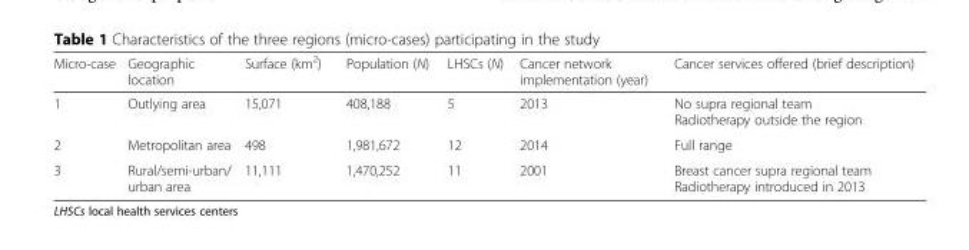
<table><thead><tr><td>Micro-case</td><td>Geographic location</td><td>Surface (km<sup>2</sup>)</td><td>Population (N)</td><td>LHSCs (N)</td><td>Cancer network implementation (year)</td><td>Cancer services offered (brief description)</td></tr></thead><tbody><tr><td>1</td><td>Outlying area</td><td>15,071</td><td>408,188</td><td>5</td><td>2013</td><td>No supra regional team Radiotherapy outside the region</td></tr><tr><td>2</td><td>Metropolitan area</td><td>498</td><td>1,981,672</td><td>12</td><td>2014</td><td>Full range</td></tr><tr><td>3</td><td>Rural/semi-urban/ urban area</td><td>11,111</td><td>1,470,252</td><td>11</td><td>2001</td><td>Breast cancer supra regional team Radiotherapy introduced in 2013</td></tr></tbody></table>